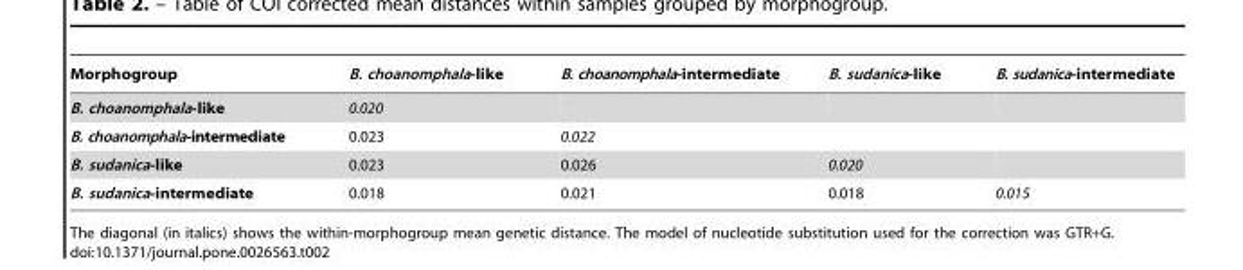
<table><thead><tr><td>Morphogroup</td><td>B. choanomphala-like</td><td>B. choanomphala-intermediate</td><td>B. sudanica-like</td><td>B. sudanica-intermediate</td></tr></thead><tbody><tr><td>B. choanomphala-like</td><td>0.020</td><td></td><td></td><td></td></tr><tr><td>B. choanomphala-intermediate</td><td>0.023</td><td>0.022</td><td></td><td></td></tr><tr><td>B. sudanica-like</td><td>0.023</td><td>0.026</td><td>0.020</td><td></td></tr><tr><td>B. sudanica-intermediate</td><td>0.018</td><td>0.021</td><td>0.018</td><td>0.015</td></tr></tbody></table>